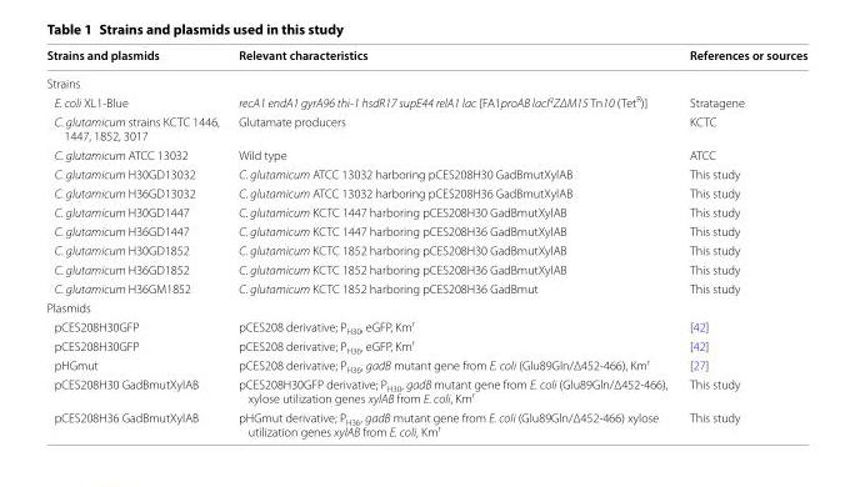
<table><thead><tr><td>Strains and plasmids</td><td>Relevant characteristics</td><td>References or sources</td></tr></thead><tbody><tr><td colspan="3">Strains</td></tr><tr><td>E. coli XL1‑Blue</td><td>recA1 endA1 gyrA96 thi‑1 hsdR17 supE44 relA1 lac [FA1proAB lacI<sup>q</sup>ZΔM15 Tn10 (Tet<sup>R</sup>)]</td><td>Stratagene</td></tr><tr><td>C. glutamicum strains KCTC 1446, 1447, 1852, 3017</td><td>Glutamate producers</td><td>KCTC</td></tr><tr><td>C. glutamicum ATCC 13032</td><td>Wild type</td><td>ATCC</td></tr><tr><td>C. glutamicum H30GD13032</td><td>C. glutamicum ATCC 13032 harboring pCES208H30 GadBmutXylAB</td><td>This study</td></tr><tr><td>C. glutamicum H36GD13032</td><td>C. glutamicum ATCC 13032 harboring pCES208H36 GadBmutXylAB</td><td>This study</td></tr><tr><td>C. glutamicum H30GD1447</td><td>C. glutamicum KCTC 1447 harboring pCES208H30 GadBmutXylAB</td><td>This study</td></tr><tr><td>C. glutamicum H36GD1447</td><td>C. glutamicum KCTC 1447 harboring pCES208H36 GadBmutXylAB</td><td>This study</td></tr><tr><td>C. glutamicum H30GD1852</td><td>C. glutamicum KCTC 1852 harboring pCES208H30 GadBmutXylAB</td><td>This study</td></tr><tr><td>C. glutamicum H36GD1852</td><td>C. glutamicum KCTC 1852 harboring pCES208H36 GadBmutXylAB</td><td>This study</td></tr><tr><td>C. glutamicum H36GM1852</td><td>C. glutamicum KCTC 1852 harboring pCES208H36 GadBmut</td><td>This study</td></tr><tr><td colspan="3">Plasmids</td></tr><tr><td>pCES208H30GFP</td><td>pCES208 derivative; P<sub>H30</sub>, eGFP, Km<sup>r</sup></td><td>[42]</td></tr><tr><td>pCES208H30GFP</td><td>pCES208 derivative; P<sub>H36</sub>, eGFP, Km<sup>r</sup></td><td>[42]</td></tr><tr><td>pHGmut</td><td>pCES208 derivative; P<sub>H36</sub>, gadB mutant gene from E. coli (Glu89Gln/Δ452‑466), Km<sup>r</sup></td><td>[27]</td></tr><tr><td>pCES208H30 GadBmutXylAB</td><td>pCES208H30GFP derivative; P<sub>H30</sub>, gadB mutant gene from E. coli (Glu89Gln/Δ452‑466), xylose utilization genes xylAB from E. coli, Km<sup>r</sup></td><td>This study</td></tr><tr><td>pCES208H36 GadBmutXylAB</td><td>pHGmut derivative; P<sub>H36</sub>, gadB mutant gene from E. coli (Glu89Gln/Δ452‑466) xylose utilization genes xylAB from E. coli, Km<sup>r</sup></td><td>This study</td></tr></tbody></table>